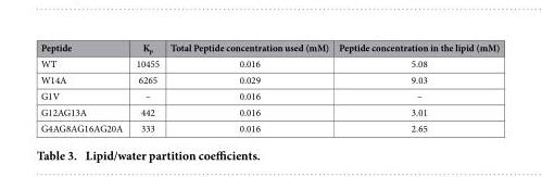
<table><thead><tr><td>Peptide</td><td>K<sub>p</sub></td><td>Total Peptide concentration used (mM)</td><td>Peptide concentration in the lipid (mM)</td></tr></thead><tbody><tr><td>WT</td><td>10455</td><td>0.016</td><td>5.08</td></tr><tr><td>W14A</td><td>6265</td><td>0.029</td><td>9.03</td></tr><tr><td>G1V</td><td>–</td><td>0.016</td><td>–</td></tr><tr><td>G12AG13A</td><td>442</td><td>0.016</td><td>3.01</td></tr><tr><td>G4AG8AG16AG20A</td><td>333</td><td>0.016</td><td>2.65</td></tr></tbody></table>